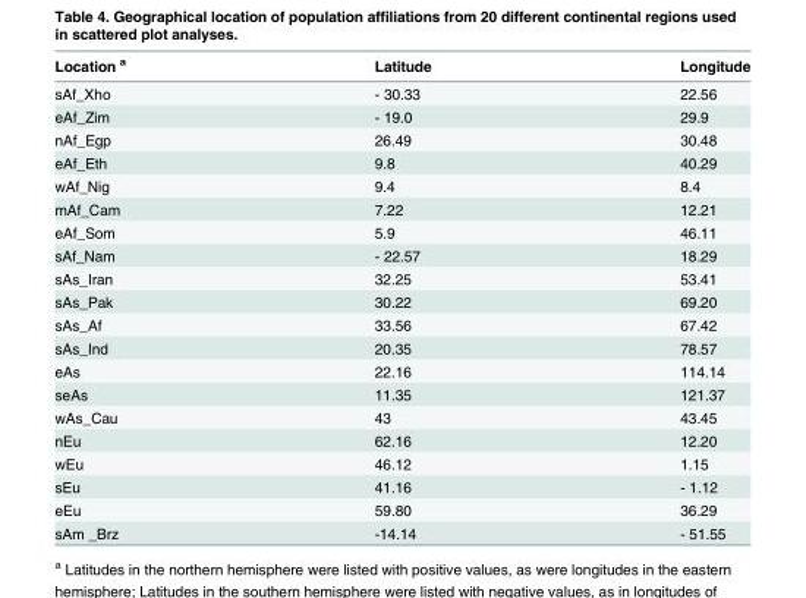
<table><thead><tr><td>Location <sup>a</sup></td><td>Latitude</td><td>Longitude</td></tr></thead><tbody><tr><td>sAf_Xho</td><td>- 30.33</td><td>22.56</td></tr><tr><td>eAf_Zim</td><td>- 19.0</td><td>29.9</td></tr><tr><td>nAf_Egp</td><td>26.49</td><td>30.48</td></tr><tr><td>eAf_Eth</td><td>9.8</td><td>40.29</td></tr><tr><td>wAf_Nig</td><td>9.4</td><td>8.4</td></tr><tr><td>mAf_Cam</td><td>7.22</td><td>12.21</td></tr><tr><td>eAf_Som</td><td>5.9</td><td>46.11</td></tr><tr><td>sAf_Nam</td><td>- 22.57</td><td>18.29</td></tr><tr><td>sAs_Iran</td><td>32.25</td><td>53.41</td></tr><tr><td>sAs_Pak</td><td>30.22</td><td>69.20</td></tr><tr><td>sAs_Af</td><td>33.56</td><td>67.42</td></tr><tr><td>sAs_Ind</td><td>20.35</td><td>78.57</td></tr><tr><td>eAs</td><td>22.16</td><td>114.14</td></tr><tr><td>seAs</td><td>11.35</td><td>121.37</td></tr><tr><td>wAs_Cau</td><td>43</td><td>43.45</td></tr><tr><td>nEu</td><td>62.16</td><td>12.20</td></tr><tr><td>wEu</td><td>46.12</td><td>1.15</td></tr><tr><td>sEu</td><td>41.16</td><td>- 1.12</td></tr><tr><td>eEu</td><td>59.80</td><td>36.29</td></tr><tr><td>sAm _Brz</td><td>-14.14</td><td>- 51.55</td></tr></tbody></table>